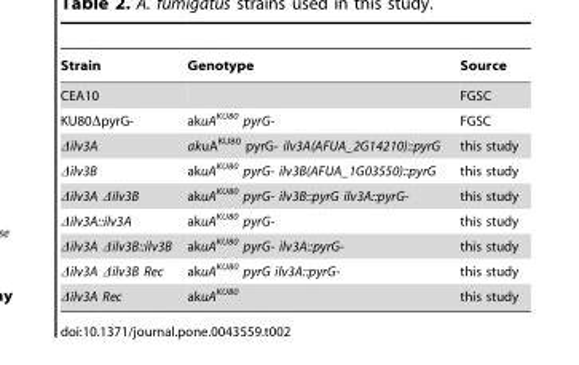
<table><thead><tr><td>Strain</td><td>Genotype</td><td>Source</td></tr></thead><tbody><tr><td>CEA10</td><td></td><td>FGSC</td></tr><tr><td>KU80ΔpyrG-</td><td>akuA<sup>KU80</sup> pyrG-</td><td>FGSC</td></tr><tr><td>Δilv3A</td><td>akuA<sup>KU80</sup> pyrG- ilv3A(AFUA_2G14210)::pyrG</td><td>this study</td></tr><tr><td>Δilv3B</td><td>akuA<sup>KU80</sup> pyrG- ilv3B(AFUA_1G03550)::pyrG</td><td>this study</td></tr><tr><td>Δilv3A Δilv3B</td><td>akuA<sup>KU80</sup> pyrG- ilv3B::pyrG ilv3A::pyrG-</td><td>this study</td></tr><tr><td>Δilv3A::ilv3A</td><td>akuA<sup>KU80</sup> pyrG-</td><td>this study</td></tr><tr><td>Δilv3A Δilv3B::ilv3B</td><td>akuA<sup>KU80</sup> pyrG- ilv3A::pyrG-</td><td>this study</td></tr><tr><td>Δilv3A Δilv3B Rec</td><td>akuA<sup>KU80</sup> pyrG ilv3A::pyrG-</td><td>this study</td></tr><tr><td>Δilv3A Rec</td><td>akuA<sup>KU80</sup></td><td>this study</td></tr></tbody></table>